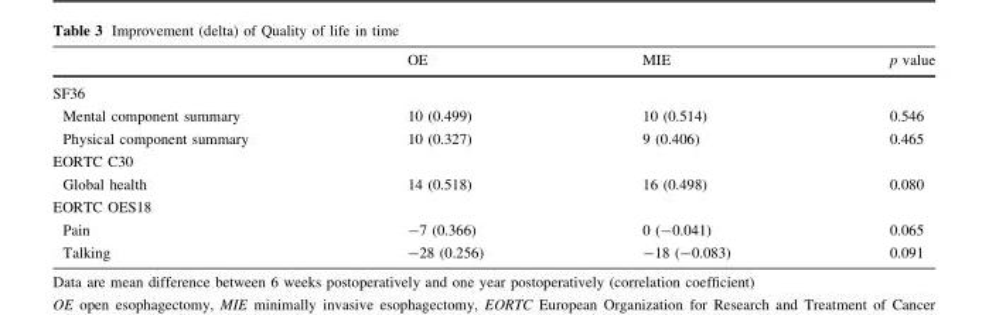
<table><thead><tr><td></td><td>OE</td><td>MIE</td><td>p value</td></tr></thead><tbody><tr><td colspan="4">SF36</td></tr><tr><td>Mental component summary</td><td>10 (0.499)</td><td>10 (0.514)</td><td>0.546</td></tr><tr><td>Physical component summary</td><td>10 (0.327)</td><td>9 (0.406)</td><td>0.465</td></tr><tr><td colspan="4">EORTC C30</td></tr><tr><td>Global health</td><td>14 (0.518)</td><td>16 (0.498)</td><td>0.080</td></tr><tr><td colspan="4">EORTC OES18</td></tr><tr><td>Pain</td><td>-7 (0.366)</td><td>0 (-0.041)</td><td>0.065</td></tr><tr><td>Talking</td><td>-28 (0.256)</td><td>-18 (-0.083)</td><td>0.091</td></tr></tbody></table>